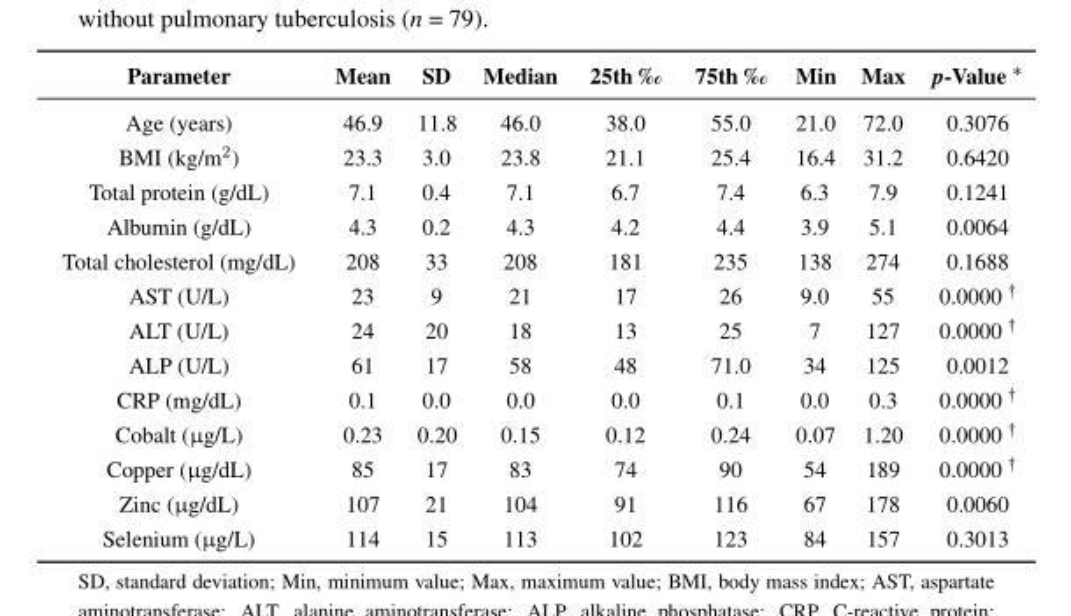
<table><thead><tr><td>Parameter</td><td>Mean</td><td>SD</td><td>Median</td><td>25th ‰</td><td>75th ‰</td><td>Min</td><td>Max</td><td>p-Value</td></tr></thead><tbody><tr><td>Age (years)</td><td>46.9</td><td>11.8</td><td>46.0</td><td>38.0</td><td>55.0</td><td>21.0</td><td>72.0</td><td>0.3076</td></tr><tr><td>BMI (kg/m<sup>2</sup>)</td><td>23.3</td><td>3.0</td><td>23.8</td><td>21.1</td><td>25.4</td><td>16.4</td><td>31.2</td><td>0.6420</td></tr><tr><td>Total protein (g/dL)</td><td>7.1</td><td>0.4</td><td>7.1</td><td>6.7</td><td>7.4</td><td>6.3</td><td>7.9</td><td>0.1241</td></tr><tr><td>Albumin (g/dL)</td><td>4.3</td><td>0.2</td><td>4.3</td><td>4.2</td><td>4.4</td><td>3.9</td><td>5.1</td><td>0.0064</td></tr><tr><td>Total cholesterol (mg/dL)</td><td>208</td><td>33</td><td>208</td><td>181</td><td>235</td><td>138</td><td>274</td><td>0.1688</td></tr><tr><td>AST (U/L)</td><td>23</td><td>9</td><td>21</td><td>17</td><td>26</td><td>9.0</td><td>55</td><td>0.0000</td></tr><tr><td>ALT (U/L)</td><td>24</td><td>20</td><td>18</td><td>13</td><td>25</td><td>7</td><td>127</td><td>0.0000</td></tr><tr><td>ALP (U/L)</td><td>61</td><td>17</td><td>58</td><td>48</td><td>71.0</td><td>34</td><td>125</td><td>0.0012</td></tr><tr><td>CRP (mg/dL)</td><td>0.1</td><td>0.0</td><td>0.0</td><td>0.0</td><td>0.1</td><td>0.0</td><td>0.3</td><td>0.0000</td></tr><tr><td>Cobalt (µg/L)</td><td>0.23</td><td>0.20</td><td>0.15</td><td>0.12</td><td>0.24</td><td>0.07</td><td>1.20</td><td>0.0000</td></tr><tr><td>Copper (µg/dL)</td><td>85</td><td>17</td><td>83</td><td>74</td><td>90</td><td>54</td><td>189</td><td>0.0000</td></tr><tr><td>Zinc (µg/dL)</td><td>107</td><td>21</td><td>104</td><td>91</td><td>116</td><td>67</td><td>178</td><td>0.0060</td></tr><tr><td>Selenium (µg/L)</td><td>114</td><td>15</td><td>113</td><td>102</td><td>123</td><td>84</td><td>157</td><td>0.3013</td></tr></tbody></table>